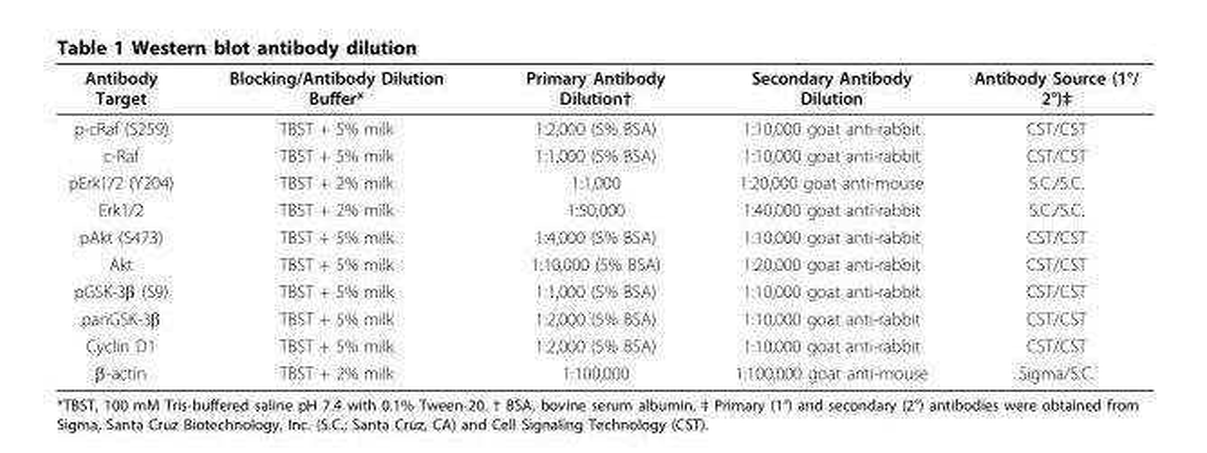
<table><thead><tr><td>Antibody Target</td><td>Blocking/Antibody Dilution Buffer*</td><td>Primary Antibody Dilution†</td><td>Secondary Antibody Dilution</td><td>Antibody Source (1°/ 2°)‡</td></tr></thead><tbody><tr><td>p-cRaf (S259)</td><td>TBST + 5% milk</td><td>1:2,000 (5% BSA)</td><td>1:10,000 goat anti-rabbit</td><td>CST/CST</td></tr><tr><td>c-Raf</td><td>TBST + 5% milk</td><td>1:1,000 (5% BSA)</td><td>1:10,000 goat anti-rabbit</td><td>CST/CST</td></tr><tr><td>pErk1/2 (Y204)</td><td>TBST + 2% milk</td><td>1:1,000</td><td>1:20,000 goat anti-mouse</td><td>S.C./S.C.</td></tr><tr><td>Erk1/2</td><td>TBST + 2% milk</td><td>1:50,000</td><td>1:40,000 goat anti-rabbit</td><td>S.C./S.C.</td></tr><tr><td>pAkt (S473)</td><td>TBST + 5% milk</td><td>1:4,000 (5% BSA)</td><td>1:10,000 goat anti-rabbit</td><td>CST/CST</td></tr><tr><td>Akt</td><td>TBST + 5% milk</td><td>1:10,000 (5% BSA)</td><td>1:20,000 goat anti-rabbit</td><td>CST/CST</td></tr><tr><td>pGSK-3β (S9)</td><td>TBST + 5% milk</td><td>1:1,000 (5% BSA)</td><td>1:10,000 goat anti-rabbit</td><td>CST/CST</td></tr><tr><td>panGSK-3β</td><td>TBST + 5% milk</td><td>1:2,000 (5% BSA)</td><td>1:10,000 goat anti-rabbit</td><td>CST/CST</td></tr><tr><td>Cyclin D1</td><td>TBST + 5% milk</td><td>1:2,000 (5% BSA)</td><td>1:10,000 goat anti-rabbit</td><td>CST/CST</td></tr><tr><td>β-actin</td><td>TBST + 2% milk</td><td>1:100,000</td><td>1:100,000 goat anti-mouse</td><td>Sigma/S.C.</td></tr></tbody></table>